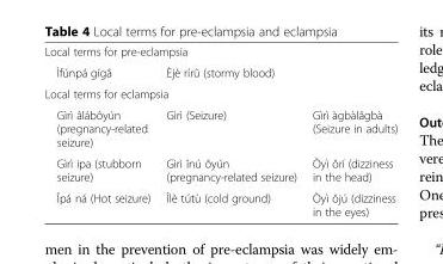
<table><tbody><tr><td colspan="3">Local terms for pre-eclampsia</td></tr><tr><td>Ìfúnpá gígâ</td><td>Èjè rírû (stormy blood)</td><td></td></tr><tr><td colspan="3">Local terms for eclampsia</td></tr><tr><td>Gìrì âlábôyún (pregnancy-related seizure)</td><td>Gìrì (Seizure)</td><td>Gìrì àgbàlâgbà (Seizure in adults)</td></tr><tr><td>Gìrì ipa (stubborn seizure)</td><td>Gìrì înú ôyún (pregnancy-related seizure)</td><td>Òyì ôrí (dizziness in the head)</td></tr><tr><td>Îpá ná (Hot seizure)</td><td>Îlè tútù (cold ground)</td><td>Òyì ôjú (dizziness in the eyes)</td></tr></tbody></table>